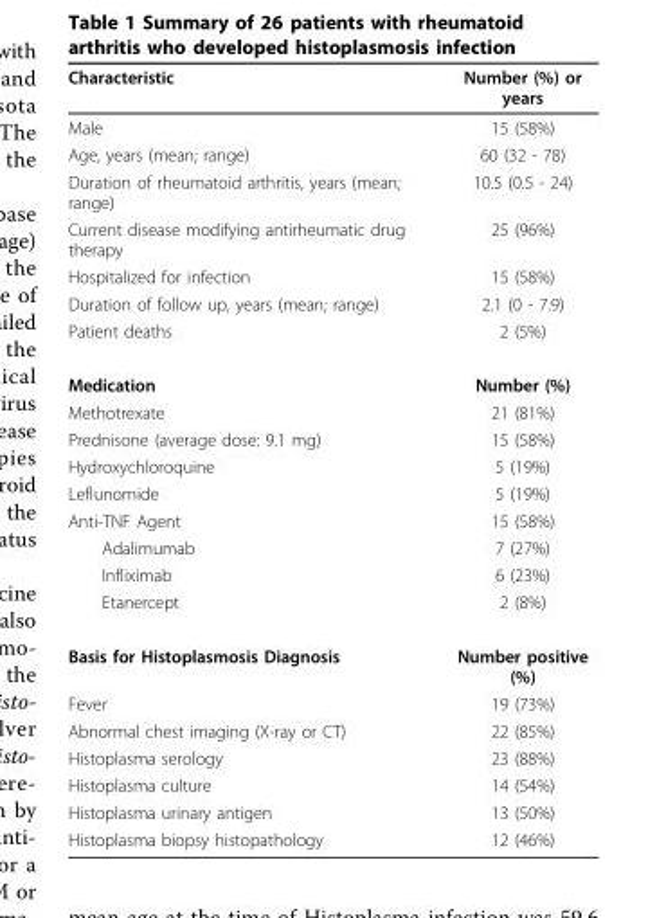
<table><thead><tr><td>Characteristic</td><td>Number (%) or years</td></tr></thead><tbody><tr><td>Male</td><td>15 (58%)</td></tr><tr><td>Age, years (mean; range)</td><td>60 (32 - 78)</td></tr><tr><td>Duration of rheumatoid arthritis, years (mean; range)</td><td>10.5 (0.5 - 24)</td></tr><tr><td>Current disease modifying antirheumatic drug therapy</td><td>25 (96%)</td></tr><tr><td>Hospitalized for infection</td><td>15 (58%)</td></tr><tr><td>Duration of follow up, years (mean; range)</td><td>2.1 (0 - 7.9)</td></tr><tr><td>Patient deaths</td><td>2 (5%)</td></tr><tr><td>Medication</td><td>Number (%)</td></tr><tr><td>Methotrexate</td><td>21 (81%)</td></tr><tr><td>Prednisone (average dose: 9.1 mg)</td><td>15 (58%)</td></tr><tr><td>Hydroxychloroquine</td><td>5 (19%)</td></tr><tr><td>Leflunomide</td><td>5 (19%)</td></tr><tr><td>Anti-TNF Agent</td><td>15 (58%)</td></tr><tr><td>Adalimumab</td><td>7 (27%)</td></tr><tr><td>Infliximab</td><td>6 (23%)</td></tr><tr><td>Etanercept</td><td>2 (8%)</td></tr><tr><td>Basis for Histoplasmosis Diagnosis</td><td>Number positive (%)</td></tr><tr><td>Fever</td><td>19 (73%)</td></tr><tr><td>Abnormal chest imaging (X-ray or CT)</td><td>22 (85%)</td></tr><tr><td>Histoplasma serology</td><td>23 (88%)</td></tr><tr><td>Histoplasma culture</td><td>14 (54%)</td></tr><tr><td>Histoplasma urinary antigen</td><td>13 (50%)</td></tr><tr><td>Histoplasma biopsy histopathology</td><td>12 (46%)</td></tr></tbody></table>